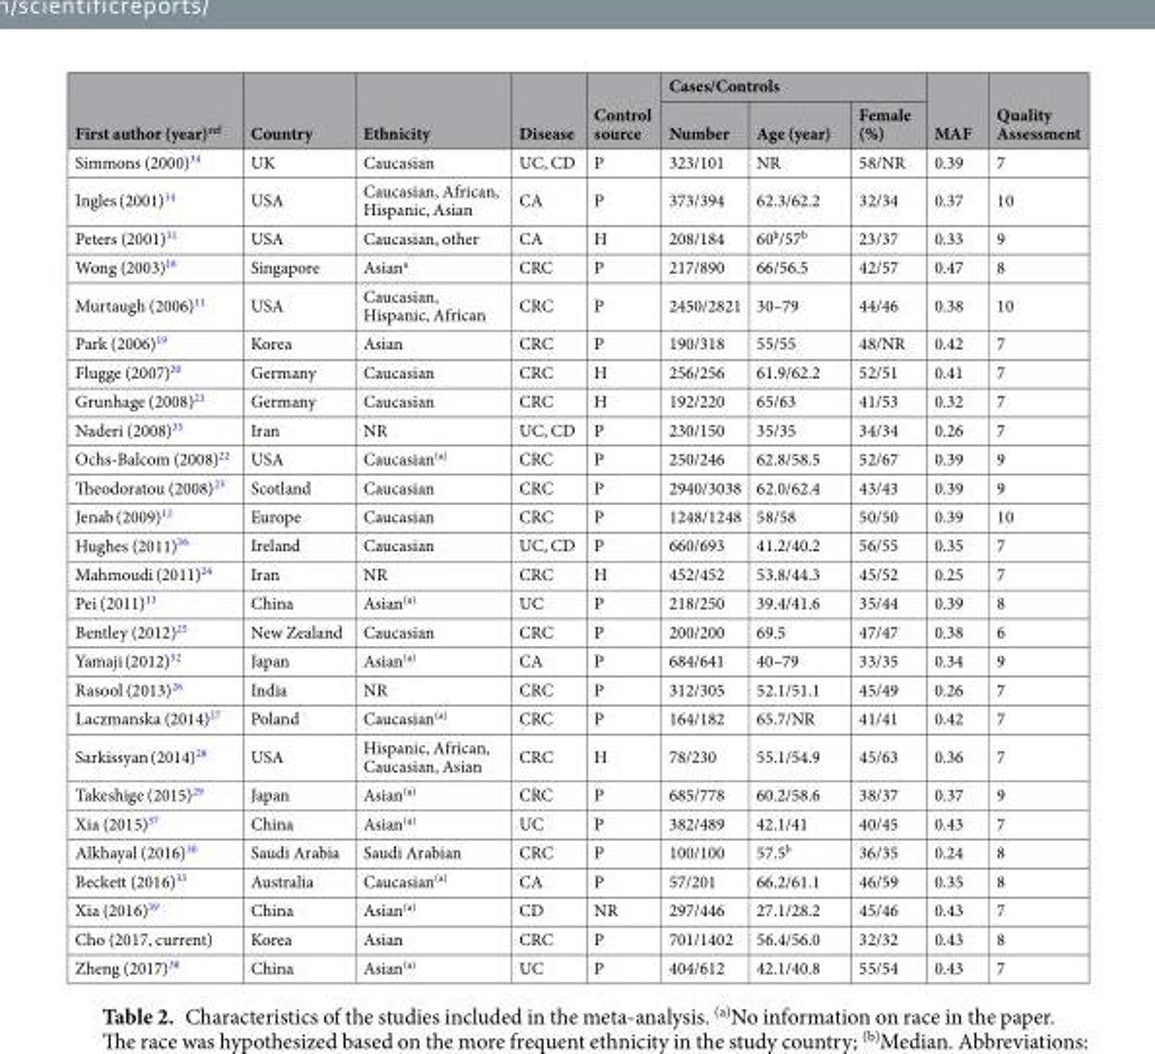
<table><thead><tr><td rowspan="2">First author (year)<sup>ref</sup></td><td rowspan="2">Country</td><td rowspan="2">Ethnicity</td><td rowspan="2">Disease</td><td rowspan="2">Control source</td><td colspan="3">Cases/Controls</td><td rowspan="2">MAF</td><td rowspan="2">Quality Assessment</td></tr><tr><td>Number</td><td>Age (year)</td><td>Female (%)</td></tr></thead><tbody><tr><td>Simmons (2000)<sup>34</sup></td><td>UK</td><td>Caucasian</td><td>UC, CD</td><td>P</td><td>323/101</td><td>NR</td><td>58/NR</td><td>0.39</td><td>7</td></tr><tr><td>Ingles (2001)<sup>14</sup></td><td>USA</td><td>Caucasian, African, Hispanic, Asian</td><td>CA</td><td>P</td><td>373/394</td><td>62.3/62.2</td><td>32/34</td><td>0.37</td><td>10</td></tr><tr><td>Peters (2001)<sup>31</sup></td><td>USA</td><td>Caucasian, other</td><td>CA</td><td>H</td><td>208/184</td><td>60<sup>b</sup>/57<sup>b</sup></td><td>23/37</td><td>0.33</td><td>9</td></tr><tr><td>Wong (2003)<sup>18</sup></td><td>Singapore</td><td>Asian<sup>a</sup></td><td>CRC</td><td>P</td><td>217/890</td><td>66/56.5</td><td>42/57</td><td>0.47</td><td>8</td></tr><tr><td>Murtaugh (2006)<sup>11</sup></td><td>USA</td><td>Caucasian, Hispanic, African</td><td>CRC</td><td>P</td><td>2450/2821</td><td>30–79</td><td>44/46</td><td>0.38</td><td>10</td></tr><tr><td>Park (2006)<sup>19</sup></td><td>Korea</td><td>Asian</td><td>CRC</td><td>P</td><td>190/318</td><td>55/55</td><td>48/NR</td><td>0.42</td><td>7</td></tr><tr><td>Flugge (2007)<sup>20</sup></td><td>Germany</td><td>Caucasian</td><td>CRC</td><td>H</td><td>256/256</td><td>61.9/62.2</td><td>52/51</td><td>0.41</td><td>7</td></tr><tr><td>Grunhage (2008)<sup>21</sup></td><td>Germany</td><td>Caucasian</td><td>CRC</td><td>H</td><td>192/220</td><td>65/63</td><td>41/53</td><td>0.32</td><td>7</td></tr><tr><td>Naderi (2008)<sup>35</sup></td><td>Iran</td><td>NR</td><td>UC, CD</td><td>P</td><td>230/150</td><td>35/35</td><td>34/34</td><td>0.26</td><td>7</td></tr><tr><td>Ochs-Balcom (2008)<sup>22</sup></td><td>USA</td><td>Caucasian<sup>(a)</sup></td><td>CRC</td><td>P</td><td>250/246</td><td>62.8/58.5</td><td>52/67</td><td>0.39</td><td>9</td></tr><tr><td>Theodoratou (2008)<sup>23</sup></td><td>Scotland</td><td>Caucasian</td><td>CRC</td><td>P</td><td>2940/3038</td><td>62.0/62.4</td><td>43/43</td><td>0.39</td><td>9</td></tr><tr><td>Jenab (2009)<sup>12</sup></td><td>Europe</td><td>Caucasian</td><td>CRC</td><td>P</td><td>1248/1248</td><td>58/58</td><td>50/50</td><td>0.39</td><td>10</td></tr><tr><td>Hughes (2011)<sup>36</sup></td><td>Ireland</td><td>Caucasian</td><td>UC, CD</td><td>P</td><td>660/693</td><td>41.2/40.2</td><td>56/55</td><td>0.35</td><td>7</td></tr><tr><td>Mahmoudi (2011)<sup>24</sup></td><td>Iran</td><td>NR</td><td>CRC</td><td>H</td><td>452/452</td><td>53.8/44.3</td><td>45/52</td><td>0.25</td><td>7</td></tr><tr><td>Pei (2011)<sup>13</sup></td><td>China</td><td>Asian<sup>(a)</sup></td><td>UC</td><td>P</td><td>218/250</td><td>39.4/41.6</td><td>35/44</td><td>0.39</td><td>8</td></tr><tr><td>Bentley (2012)<sup>25</sup></td><td>New Zealand</td><td>Caucasian</td><td>CRC</td><td>P</td><td>200/200</td><td>69.5</td><td>47/47</td><td>0.38</td><td>6</td></tr><tr><td>Yamaji (2012)<sup>32</sup></td><td>Japan</td><td>Asian<sup>(a)</sup></td><td>CA</td><td>P</td><td>684/641</td><td>40–79</td><td>33/35</td><td>0.34</td><td>9</td></tr><tr><td>Rasool (2013)<sup>26</sup></td><td>India</td><td>NR</td><td>CRC</td><td>P</td><td>312/305</td><td>52.1/51.1</td><td>45/49</td><td>0.26</td><td>7</td></tr><tr><td>Laczmanska (2014)<sup>27</sup></td><td>Poland</td><td>Caucasian<sup>(a)</sup></td><td>CRC</td><td>P</td><td>164/182</td><td>65.7/NR</td><td>41/41</td><td>0.42</td><td>7</td></tr><tr><td>Sarkissyan (2014)<sup>28</sup></td><td>USA</td><td>Hispanic, African, Caucasian, Asian</td><td>CRC</td><td>H</td><td>78/230</td><td>55.1/54.9</td><td>45/63</td><td>0.36</td><td>7</td></tr><tr><td>Takeshige (2015)<sup>29</sup></td><td>Japan</td><td>Asian<sup>(a)</sup></td><td>CRC</td><td>P</td><td>685/778</td><td>60.2/58.6</td><td>38/37</td><td>0.37</td><td>9</td></tr><tr><td>Xia (2015)<sup>37</sup></td><td>China</td><td>Asian<sup>(a)</sup></td><td>UC</td><td>P</td><td>382/489</td><td>42.1/41</td><td>40/45</td><td>0.43</td><td>7</td></tr><tr><td>Alkhayal (2016)<sup>30</sup></td><td>Saudi Arabia</td><td>Saudi Arabian</td><td>CRC</td><td>P</td><td>100/100</td><td>57.5<sup>b</sup></td><td>36/35</td><td>0.24</td><td>8</td></tr><tr><td>Beckett (2016)<sup>33</sup></td><td>Australia</td><td>Caucasian<sup>(a)</sup></td><td>CA</td><td>P</td><td>57/201</td><td>66.2/61.1</td><td>46/59</td><td>0.35</td><td>8</td></tr><tr><td>Xia (2016)<sup>39</sup></td><td>China</td><td>Asian<sup>(a)</sup></td><td>CD</td><td>NR</td><td>297/446</td><td>27.1/28.2</td><td>45/46</td><td>0.43</td><td>7</td></tr><tr><td>Cho (2017, current)</td><td>Korea</td><td>Asian</td><td>CRC</td><td>P</td><td>701/1402</td><td>56.4/56.0</td><td>32/32</td><td>0.43</td><td>8</td></tr><tr><td>Zheng (2017)<sup>38</sup></td><td>China</td><td>Asian<sup>(a)</sup></td><td>UC</td><td>P</td><td>404/612</td><td>42.1/40.8</td><td>55/54</td><td>0.43</td><td>7</td></tr></tbody></table>